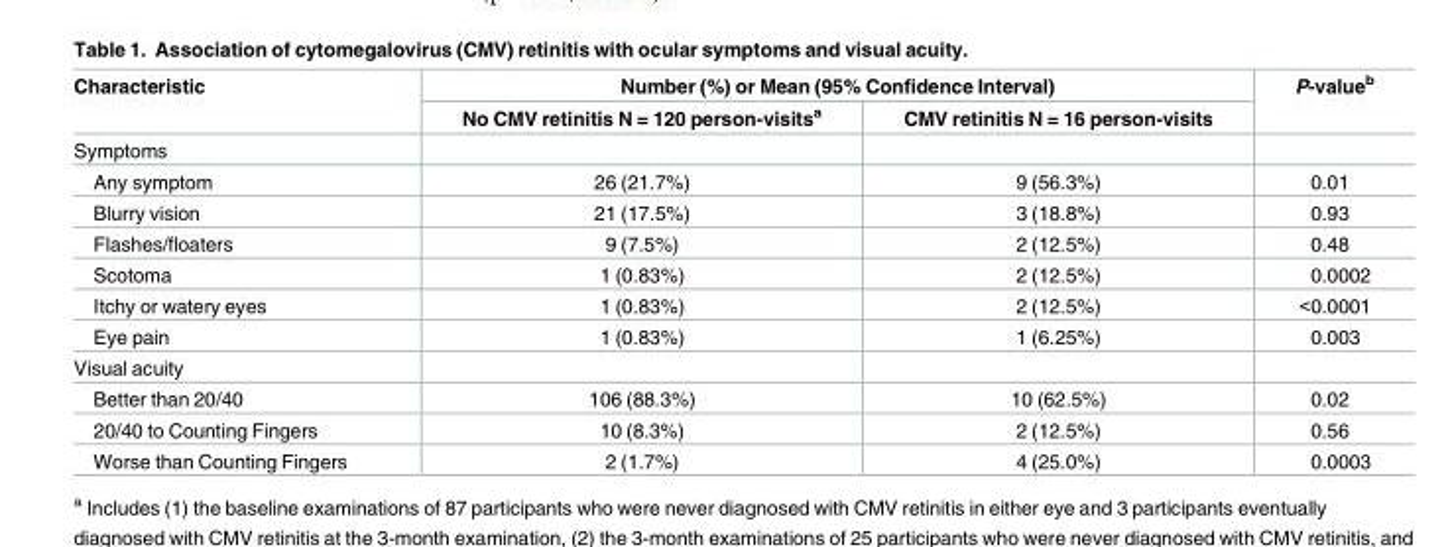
<table><thead><tr><td rowspan="2">Characteristic</td><td colspan="2">Number (%) or Mean (95% Confidence Interval)</td><td rowspan="2">P-value<sup>b</sup></td></tr><tr><td>No CMV retinitis N = 120 person-visits<sup>a</sup></td><td>CMV retinitis N = 16 person-visits</td></tr></thead><tbody><tr><td colspan="4">Symptoms</td></tr><tr><td>Any symptom</td><td>26 (21.7%)</td><td>9 (56.3%)</td><td>0.01</td></tr><tr><td>Blurry vision</td><td>21 (17.5%)</td><td>3 (18.8%)</td><td>0.93</td></tr><tr><td>Flashes/floaters</td><td>9 (7.5%)</td><td>2 (12.5%)</td><td>0.48</td></tr><tr><td>Scotoma</td><td>1 (0.83%)</td><td>2 (12.5%)</td><td>0.0002</td></tr><tr><td>Itchy or watery eyes</td><td>1 (0.83%)</td><td>2 (12.5%)</td><td>&lt;0.0001</td></tr><tr><td>Eye pain</td><td>1 (0.83%)</td><td>1 (6.25%)</td><td>0.003</td></tr><tr><td colspan="4">Visual acuity</td></tr><tr><td>Better than 20/40</td><td>106 (88.3%)</td><td>10 (62.5%)</td><td>0.02</td></tr><tr><td>20/40 to Counting Fingers</td><td>10 (8.3%)</td><td>2 (12.5%)</td><td>0.56</td></tr><tr><td>Worse than Counting Fingers</td><td>2 (1.7%)</td><td>4 (25.0%)</td><td>0.0003</td></tr></tbody></table>